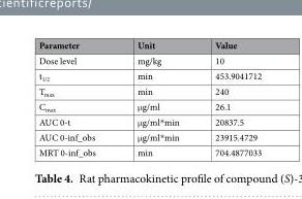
<table><thead><tr><td>Parameter</td><td>Unit</td><td>Value</td></tr></thead><tbody><tr><td>Dose level</td><td>mg/kg</td><td>10</td></tr><tr><td>t<sub>1/2</sub></td><td>min</td><td>453.9041712</td></tr><tr><td>T<sub>max</sub></td><td>min</td><td>240</td></tr><tr><td>C<sub>max</sub></td><td>μg/ml</td><td>26.1</td></tr><tr><td>AUC 0-t</td><td>μg/ml*min</td><td>20837.5</td></tr><tr><td>AUC 0-inf_obs</td><td>μg/ml*min</td><td>23915.4729</td></tr><tr><td>MRT 0-inf_obs</td><td>min</td><td>704.4877033</td></tr></tbody></table>